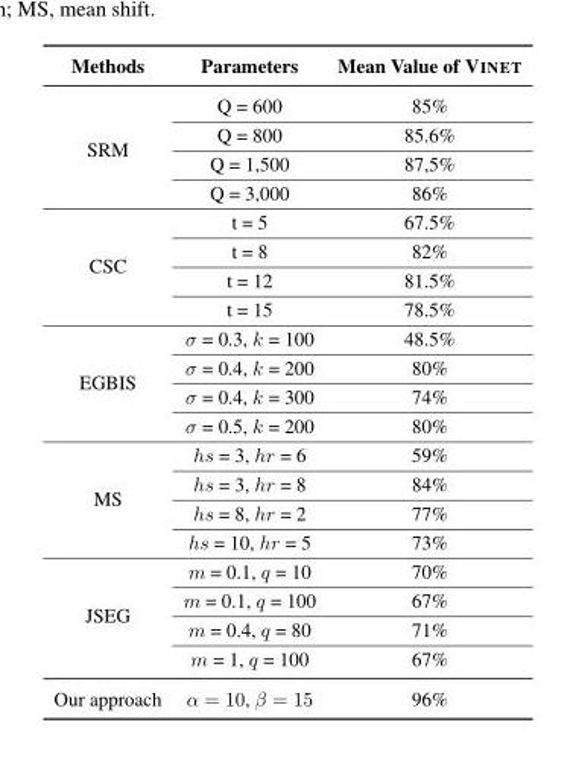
<table><thead><tr><td>Methods</td><td>Parameters</td><td>Mean Value of VINET</td></tr></thead><tbody><tr><td rowspan="4">SRM</td><td>Q = 600</td><td>85%</td></tr><tr><td>Q = 800</td><td>85.6%</td></tr><tr><td>Q = 1,500</td><td>87,5%</td></tr><tr><td>Q = 3,000</td><td>86%</td></tr><tr><td rowspan="4">CSC</td><td>t = 5</td><td>67.5%</td></tr><tr><td>t = 8</td><td>82%</td></tr><tr><td>t = 12</td><td>81.5%</td></tr><tr><td>t = 15</td><td>78.5%</td></tr><tr><td rowspan="4">EGBIS</td><td>σ = 0.3, k = 100</td><td>48.5%</td></tr><tr><td>σ = 0.4, k = 200</td><td>80%</td></tr><tr><td>σ = 0.4, k = 300</td><td>74%</td></tr><tr><td>σ = 0.5, k = 200</td><td>80%</td></tr><tr><td rowspan="4">MS</td><td>hs = 3, hr = 6</td><td>59%</td></tr><tr><td>hs = 3, hr = 8</td><td>84%</td></tr><tr><td>hs = 8, hr = 2</td><td>77%</td></tr><tr><td>hs = 10, hr = 5</td><td>73%</td></tr><tr><td rowspan="4">JSEG</td><td>m = 0.1, q = 10</td><td>70%</td></tr><tr><td>m = 0.1, q = 100</td><td>67%</td></tr><tr><td>m = 0.4, q = 80</td><td>71%</td></tr><tr><td>m = 1, q = 100</td><td>67%</td></tr><tr><td>Our approach</td><td>α = 10, β = 15</td><td>96%</td></tr></tbody></table>